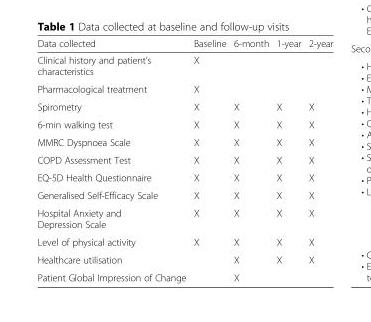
<table><thead><tr><td>Data collected</td><td>Baseline</td><td>6-month</td><td>1-year</td><td>2-year</td></tr></thead><tbody><tr><td>Clinical history and patient’s characteristics</td><td>X</td><td></td><td></td><td></td></tr><tr><td>Pharmacological treatment</td><td>X</td><td></td><td></td><td></td></tr><tr><td>Spirometry</td><td>X</td><td>X</td><td>X</td><td>X</td></tr><tr><td>6-min walking test</td><td>X</td><td>X</td><td>X</td><td>X</td></tr><tr><td>MMRC Dyspnoea Scale</td><td>X</td><td>X</td><td>X</td><td>X</td></tr><tr><td>COPD Assessment Test</td><td>X</td><td>X</td><td>X</td><td>X</td></tr><tr><td>EQ-5D Health Questionnaire</td><td>X</td><td>X</td><td>X</td><td>X</td></tr><tr><td>Generalised Self-Efficacy Scale</td><td>X</td><td>X</td><td>X</td><td>X</td></tr><tr><td>Hospital Anxiety and Depression Scale</td><td>X</td><td>X</td><td>X</td><td>X</td></tr><tr><td>Level of physical activity</td><td>X</td><td>X</td><td>X</td><td>X</td></tr><tr><td>Healthcare utilisation</td><td></td><td>X</td><td>X</td><td>X</td></tr><tr><td>Patient Global Impression of Change</td><td></td><td>X</td><td></td><td></td></tr></tbody></table>